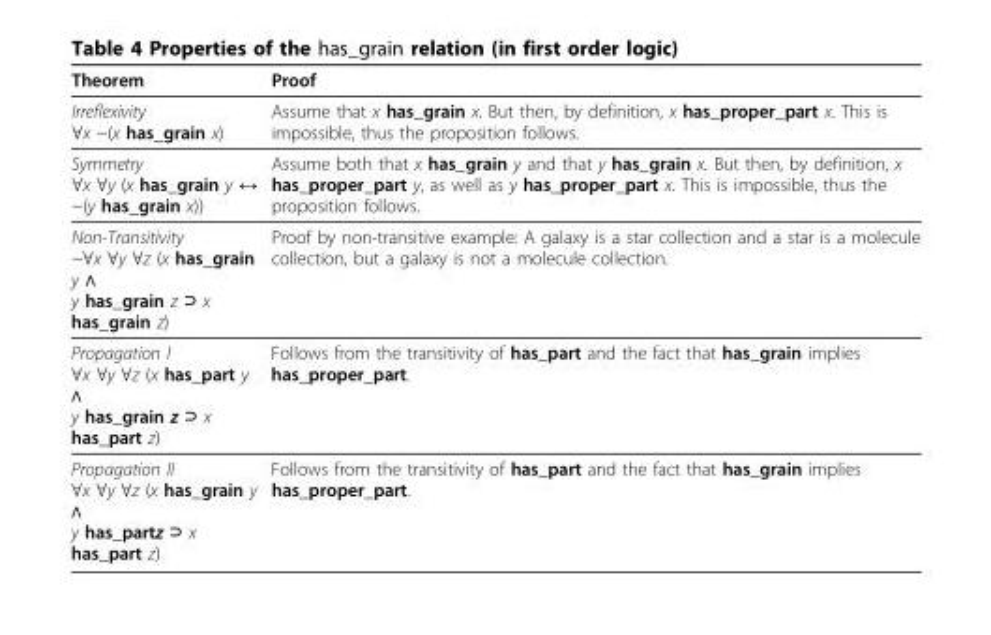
<table><thead><tr><td>Theorem</td><td>Proof</td></tr></thead><tbody><tr><td>Irreflexivity ∀x ~(x has_grain x)</td><td>Assume that x has_grain x. But then, by definition, x has_proper_part x. This is impossible, thus the proposition follows.</td></tr><tr><td>Symmetry ∀x ∀y (x has_grain y ↔ ~(y has_grain x))</td><td>Assume both that x has_grain y and that y has_grain x. But then, by definition, x has_proper_part y, as well as y has_proper_part x. This is impossible, thus the proposition follows.</td></tr><tr><td>Non-Transitivity ~∀x ∀y ∀z (x has_grain y ⋀ y has_grain z ⊃ x has_grain z)</td><td>Proof by non-transitive example: A galaxy is a star collection and a star is a molecule collection, but a galaxy is not a molecule collection.</td></tr><tr><td>Propagation I ∀x ∀y ∀z (x has_part y ⋀ y has_grain z ⊃ x has_part z)</td><td>Follows from the transitivity of has_part and the fact that has_grain implies has_proper_part.</td></tr><tr><td>Propagation II ∀x ∀y ∀z (x has_grain y ⋀ y has_partz ⊃ x has_part z)</td><td>Follows from the transitivity of has_part and the fact that has_grain implies has_proper_part.</td></tr></tbody></table>